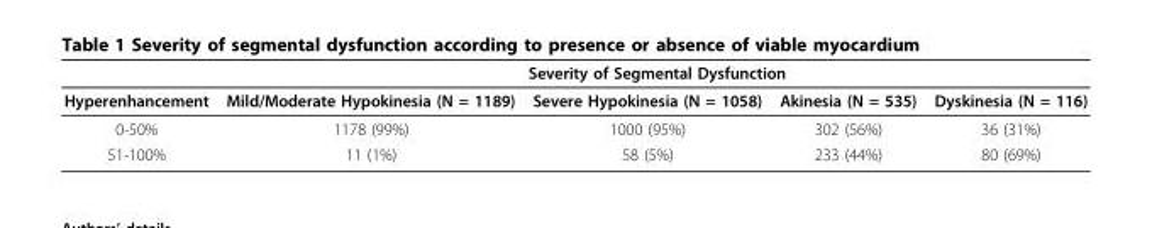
<table><thead><tr><td rowspan="2">Hyperenhancement</td><td colspan="4">Severity of Segmental Dysfunction</td></tr><tr><td>Mild/Moderate Hypokinesia (N = 1189)</td><td>Severe Hypokinesia (N = 1058)</td><td>Akinesia (N = 535)</td><td>Dyskinesia (N = 116)</td></tr></thead><tbody><tr><td>0-50%</td><td>1178 (99%)</td><td>1000 (95%)</td><td>302 (56%)</td><td>36 (31%)</td></tr><tr><td>51-100%</td><td>11 (1%)</td><td>58 (5%)</td><td>233 (44%)</td><td>80 (69%)</td></tr></tbody></table>